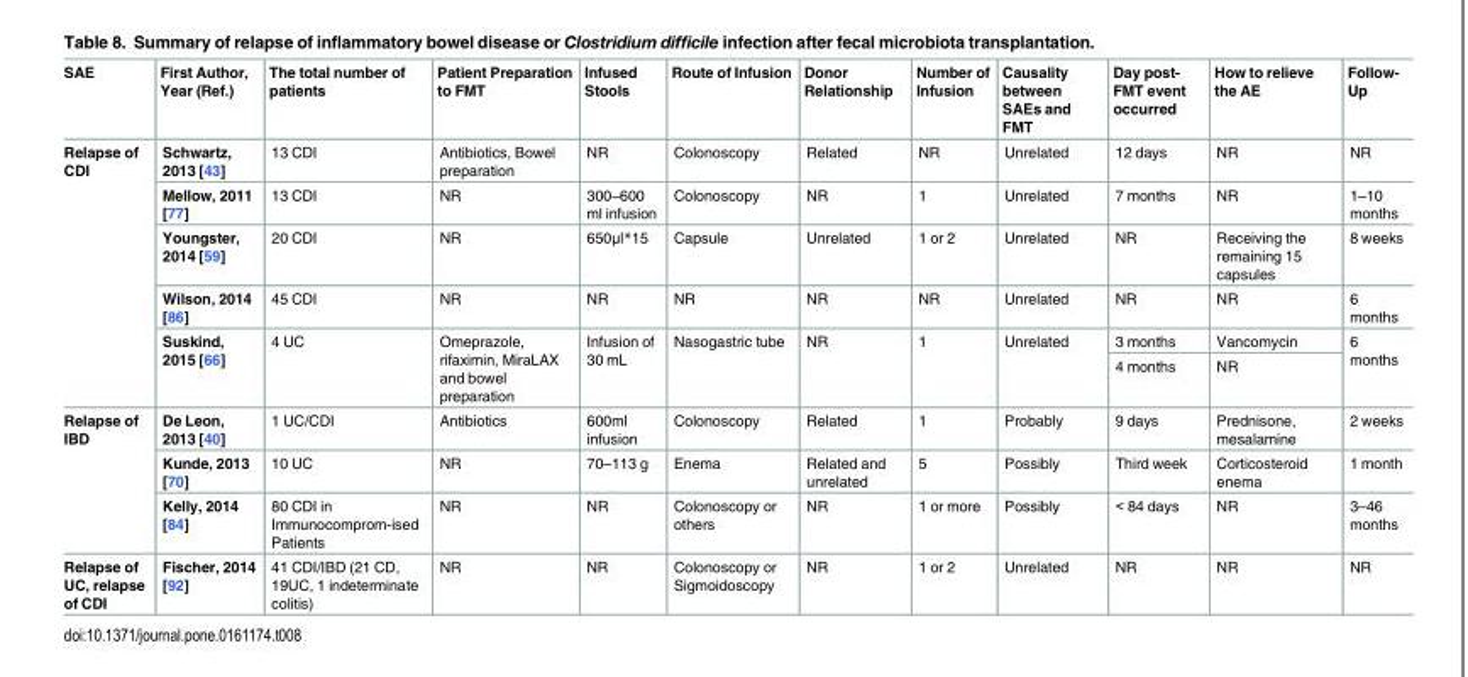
<table><thead><tr><td>SAE</td><td>First Author, Year (Ref.)</td><td>The total number of patients</td><td>Patient Preparation to FMT</td><td>Infused Stools</td><td>Route of Infusion</td><td>Donor Relationship</td><td>Number of Infusion</td><td>Causality between SAEs and FMT</td><td>Day post- FMT event occurred</td><td>How to relieve the AE</td><td>Follow- Up</td></tr></thead><tbody><tr><td rowspan="6">Relapse of CDI</td><td>Schwartz, 2013 [43]</td><td>13 CDI</td><td>Antibiotics, Bowel preparation</td><td>NR</td><td>Colonoscopy</td><td>Related</td><td>NR</td><td>Unrelated</td><td>12 days</td><td>NR</td><td>NR</td></tr><tr><td>Mellow, 2011 [77]</td><td>13 CDI</td><td>NR</td><td>300–600 ml infusion</td><td>Colonoscopy</td><td>NR</td><td>1</td><td>Unrelated</td><td>7 months</td><td>NR</td><td>1–10 months</td></tr><tr><td>Youngster, 2014 [59]</td><td>20 CDI</td><td>NR</td><td>650μl*15</td><td>Capsule</td><td>Unrelated</td><td>1 or 2</td><td>Unrelated</td><td>NR</td><td>Receiving the remaining 15 capsules</td><td>8 weeks</td></tr><tr><td>Wilson, 2014 [86]</td><td>45 CDI</td><td>NR</td><td>NR</td><td>NR</td><td>NR</td><td>NR</td><td>Unrelated</td><td>NR</td><td>NR</td><td>6 months</td></tr><tr><td rowspan="2">Suskind, 2015 [66]</td><td rowspan="2">4 UC</td><td rowspan="2">Omeprazole, rifaximin, MiraLAX and bowel preparation</td><td rowspan="2">Infusion of 30 mL</td><td rowspan="2">Nasogastric tube</td><td rowspan="2">NR</td><td rowspan="2">1</td><td rowspan="2">Unrelated</td><td>3 months</td><td>Vancomycin</td><td rowspan="2">6 months</td></tr><tr><td>4 months</td><td>NR</td></tr><tr><td rowspan="3">Relapse of IBD</td><td>De Leon, 2013 [40]</td><td>1 UC/CDI</td><td>Antibiotics</td><td>600ml infusion</td><td>Colonoscopy</td><td>Related</td><td>1</td><td>Probably</td><td>9 days</td><td>Prednisone, mesalamine</td><td>2 weeks</td></tr><tr><td>Kunde, 2013 [70]</td><td>10 UC</td><td>NR</td><td>70–113 g</td><td>Enema</td><td>Related and unrelated</td><td>5</td><td>Possibly</td><td>Third week</td><td>Corticosteroid enema</td><td>1 month</td></tr><tr><td>Kelly, 2014 [84]</td><td>80 CDI in Immunocomprom-ised Patients</td><td>NR</td><td>NR</td><td>Colonoscopy or others</td><td>NR</td><td>1 or more</td><td>Possibly</td><td>&lt; 84 days</td><td>NR</td><td>3–46 months</td></tr><tr><td>Relapse of UC, relapse of CDI</td><td>Fischer, 2014 [92]</td><td>41 CDI/IBD (21 CD, 19UC, 1 indeterminate colitis)</td><td>NR</td><td>NR</td><td>Colonoscopy or Sigmoidoscopy</td><td>NR</td><td>1 or 2</td><td>Unrelated</td><td>NR</td><td>NR</td><td>NR</td></tr></tbody></table>